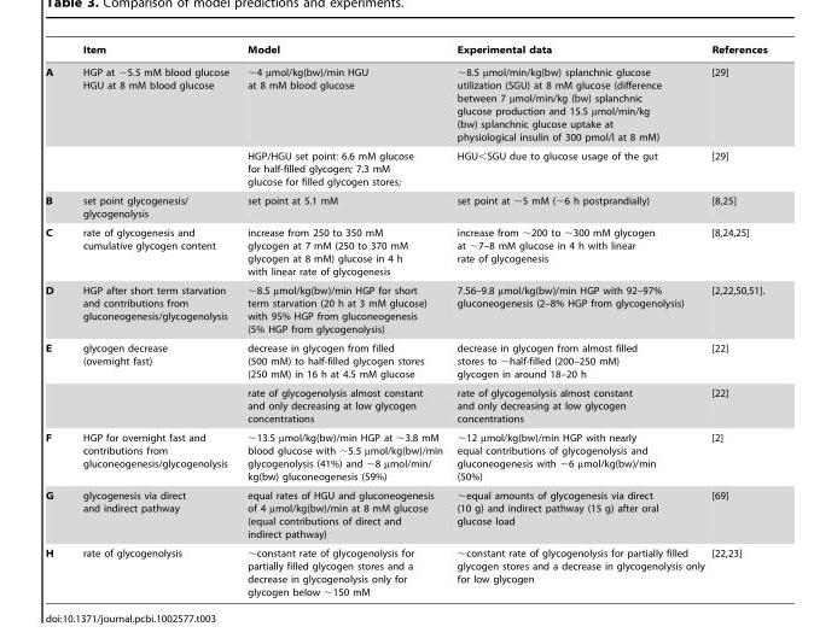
<table><thead><tr><td></td><td>Item</td><td>Model</td><td>Experimental data</td><td>References</td></tr></thead><tbody><tr><td rowspan="2">A</td><td>HGP at −5.5 mM blood glucose HGU at 8 mM blood glucose</td><td>∼4 µmol/kg(bw)/min HGU at 8 mM blood glucose</td><td>∼8.5 µmol/min/kg(bw) splanchnic glucose utilization (SGU) at 8 mM glucose (difference between 7 µmol/min/kg (bw) splanchnic glucose production and 15.5 µmol/min/kg (bw) splanchnic glucose uptake at physiological insulin of 300 pmol/l at 8 mM)</td><td>[29]</td></tr><tr><td></td><td>HGP/HGU set point: 6.6 mM glucose for half-filled glycogen; 7.3 mM glucose for filled glycogen stores;</td><td>HGU&lt;SGU due to glucose usage of the gut</td><td>[29]</td></tr><tr><td>B</td><td>set point glycogenesis/ glycogenolysis</td><td>set point at 5.1 mM</td><td>set point at ∼5 mM (∼6 h postprandially)</td><td>[8,25]</td></tr><tr><td>C</td><td>rate of glycogenesis and cumulative glycogen content</td><td>increase from 250 to 350 mM glycogen at 7 mM (250 to 370 mM glycogen at 8 mM) glucose in 4 h with linear rate of glycogenesis</td><td>increase from ∼200 to ∼300 mM glycogen at ∼7–8 mM glucose in 4 h with linear rate of glycogenesis</td><td>[8,24,25]</td></tr><tr><td>D</td><td>HGP after short term starvation and contributions from gluconeogenesis/glycogenolysis</td><td>∼8.5 µmol/kg(bw)/min HGP for short term starvation (20 h at 3 mM glucose) with 95% HGP from gluconeogenesis (5% HGP from glycogenolysis)</td><td>7.56–9.8 µmol/kg(bw)/min HGP with 92–97% gluconeogenesis (2–8% HGP from glycogenolysis)</td><td>[2,22,50,51].</td></tr><tr><td rowspan="2">E</td><td>glycogen decrease (overnight fast)</td><td>decrease in glycogen from filled (500 mM) to half-filled glycogen stores (250 mM) in 16 h at 4.5 mM glucose</td><td>decrease in glycogen from almost filled stores to ∼half-filled (200–250 mM) glycogen in around 18–20 h</td><td>[22]</td></tr><tr><td></td><td>rate of glycogenolysis almost constant and only decreasing at low glycogen concentrations</td><td>rate of glycogenolysis almost constant and only decreasing at low glycogen concentrations</td><td>[22]</td></tr><tr><td>F</td><td>HGP for overnight fast and contributions from gluconeogenesis/glycogenolysis</td><td>∼13.5 µmol/kg(bw)/min HGP at ∼3.8 mM blood glucose with ∼5.5 µmol/kg(bw)/min glycogenolysis (41%) and ∼8 µmol/min/ kg(bw) gluconeogenesis (59%)</td><td>∼12 µmol/kg(bw)/min HGP with nearly equal contributions of glycogenolysis and gluconeogenesis with ∼6 µmol/kg(bw)/min (50%)</td><td>[2]</td></tr><tr><td>G</td><td>glycogenesis via direct and indirect pathway</td><td>equal rates of HGU and gluconeogenesis of 4 µmol/kg(bw)/min at 8 mM glucose (equal contributions of direct and indirect pathway)</td><td>∼equal amounts of glycogenesis via direct (10 g) and indirect pathway (15 g) after oral glucose load</td><td>[69]</td></tr><tr><td>H</td><td>rate of glycogenolysis</td><td>∼constant rate of glycogenolysis for partially filled glycogen stores and a decrease in glycogenolysis only for glycogen below ∼150 mM</td><td>∼constant rate of glycogenolysis for partially filled glycogen stores and a decrease in glycogenolysis only for low glycogen</td><td>[22,23]</td></tr></tbody></table>